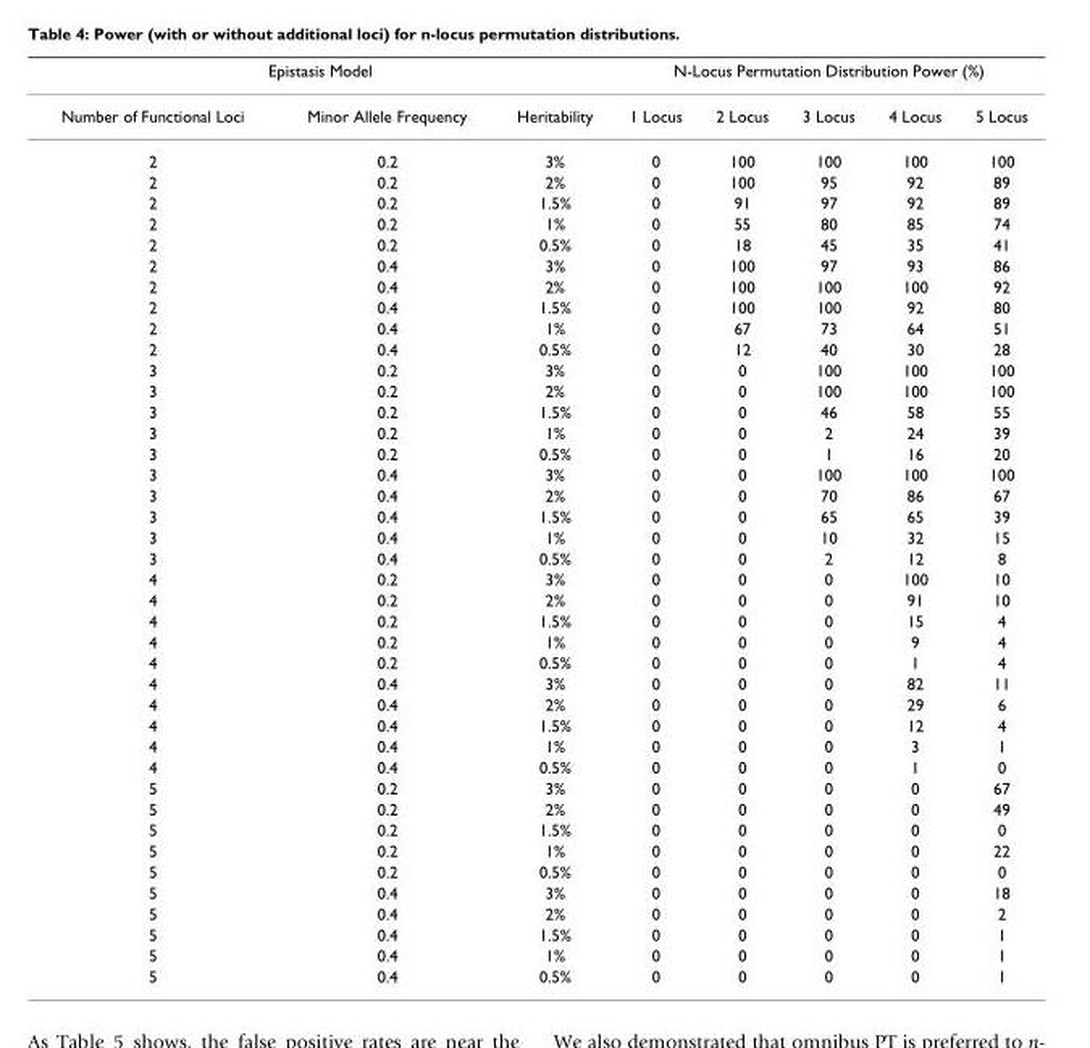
<table><thead><tr><td colspan="3">Epistasis Model</td><td colspan="5">N-Locus Permutation Distribution Power (%)</td></tr><tr><td>Number of Functional Loci</td><td>Minor Allele Frequency</td><td>Heritability</td><td>1 Locus</td><td>2 Locus</td><td>3 Locus</td><td>4 Locus</td><td>5 Locus</td></tr></thead><tbody><tr><td>2</td><td>0.2</td><td>3%</td><td>0</td><td>100</td><td>100</td><td>100</td><td>100</td></tr><tr><td>2</td><td>0.2</td><td>2%</td><td>0</td><td>100</td><td>95</td><td>92</td><td>89</td></tr><tr><td>2</td><td>0.2</td><td>1.5%</td><td>0</td><td>91</td><td>97</td><td>92</td><td>89</td></tr><tr><td>2</td><td>0.2</td><td>1%</td><td>0</td><td>55</td><td>80</td><td>85</td><td>74</td></tr><tr><td>2</td><td>0.2</td><td>0.5%</td><td>0</td><td>18</td><td>45</td><td>35</td><td>41</td></tr><tr><td>2</td><td>0.4</td><td>3%</td><td>0</td><td>100</td><td>97</td><td>93</td><td>86</td></tr><tr><td>2</td><td>0.4</td><td>2%</td><td>0</td><td>100</td><td>100</td><td>100</td><td>92</td></tr><tr><td>2</td><td>0.4</td><td>1.5%</td><td>0</td><td>100</td><td>100</td><td>92</td><td>80</td></tr><tr><td>2</td><td>0.4</td><td>1%</td><td>0</td><td>67</td><td>73</td><td>64</td><td>51</td></tr><tr><td>2</td><td>0.4</td><td>0.5%</td><td>0</td><td>12</td><td>40</td><td>30</td><td>28</td></tr><tr><td>3</td><td>0.2</td><td>3%</td><td>0</td><td>0</td><td>100</td><td>100</td><td>100</td></tr><tr><td>3</td><td>0.2</td><td>2%</td><td>0</td><td>0</td><td>100</td><td>100</td><td>100</td></tr><tr><td>3</td><td>0.2</td><td>1.5%</td><td>0</td><td>0</td><td>46</td><td>58</td><td>55</td></tr><tr><td>3</td><td>0.2</td><td>1%</td><td>0</td><td>0</td><td>2</td><td>24</td><td>39</td></tr><tr><td>3</td><td>0.2</td><td>0.5%</td><td>0</td><td>0</td><td>1</td><td>16</td><td>20</td></tr><tr><td>3</td><td>0.4</td><td>3%</td><td>0</td><td>0</td><td>100</td><td>100</td><td>100</td></tr><tr><td>3</td><td>0.4</td><td>2%</td><td>0</td><td>0</td><td>70</td><td>86</td><td>67</td></tr><tr><td>3</td><td>0.4</td><td>1.5%</td><td>0</td><td>0</td><td>65</td><td>65</td><td>39</td></tr><tr><td>3</td><td>0.4</td><td>1%</td><td>0</td><td>0</td><td>10</td><td>32</td><td>15</td></tr><tr><td>3</td><td>0.4</td><td>0.5%</td><td>0</td><td>0</td><td>2</td><td>12</td><td>8</td></tr><tr><td>4</td><td>0.2</td><td>3%</td><td>0</td><td>0</td><td>0</td><td>100</td><td>10</td></tr><tr><td>4</td><td>0.2</td><td>2%</td><td>0</td><td>0</td><td>0</td><td>91</td><td>10</td></tr><tr><td>4</td><td>0.2</td><td>1.5%</td><td>0</td><td>0</td><td>0</td><td>15</td><td>4</td></tr><tr><td>4</td><td>0.2</td><td>1%</td><td>0</td><td>0</td><td>0</td><td>9</td><td>4</td></tr><tr><td>4</td><td>0.2</td><td>0.5%</td><td>0</td><td>0</td><td>0</td><td>1</td><td>4</td></tr><tr><td>4</td><td>0.4</td><td>3%</td><td>0</td><td>0</td><td>0</td><td>82</td><td>11</td></tr><tr><td>4</td><td>0.4</td><td>2%</td><td>0</td><td>0</td><td>0</td><td>29</td><td>6</td></tr><tr><td>4</td><td>0.4</td><td>1.5%</td><td>0</td><td>0</td><td>0</td><td>12</td><td>4</td></tr><tr><td>4</td><td>0.4</td><td>1%</td><td>0</td><td>0</td><td>0</td><td>3</td><td>1</td></tr><tr><td>4</td><td>0.4</td><td>0.5%</td><td>0</td><td>0</td><td>0</td><td>1</td><td>0</td></tr><tr><td>5</td><td>0.2</td><td>3%</td><td>0</td><td>0</td><td>0</td><td>0</td><td>67</td></tr><tr><td>5</td><td>0.2</td><td>2%</td><td>0</td><td>0</td><td>0</td><td>0</td><td>49</td></tr><tr><td>5</td><td>0.2</td><td>1.5%</td><td>0</td><td>0</td><td>0</td><td>0</td><td>0</td></tr><tr><td>5</td><td>0.2</td><td>1%</td><td>0</td><td>0</td><td>0</td><td>0</td><td>22</td></tr><tr><td>5</td><td>0.2</td><td>0.5%</td><td>0</td><td>0</td><td>0</td><td>0</td><td>0</td></tr><tr><td>5</td><td>0.4</td><td>3%</td><td>0</td><td>0</td><td>0</td><td>0</td><td>18</td></tr><tr><td>5</td><td>0.4</td><td>2%</td><td>0</td><td>0</td><td>0</td><td>0</td><td>2</td></tr><tr><td>5</td><td>0.4</td><td>1.5%</td><td>0</td><td>0</td><td>0</td><td>0</td><td>1</td></tr><tr><td>5</td><td>0.4</td><td>1%</td><td>0</td><td>0</td><td>0</td><td>0</td><td>1</td></tr><tr><td>5</td><td>0.4</td><td>0.5%</td><td>0</td><td>0</td><td>0</td><td>0</td><td>1</td></tr></tbody></table>